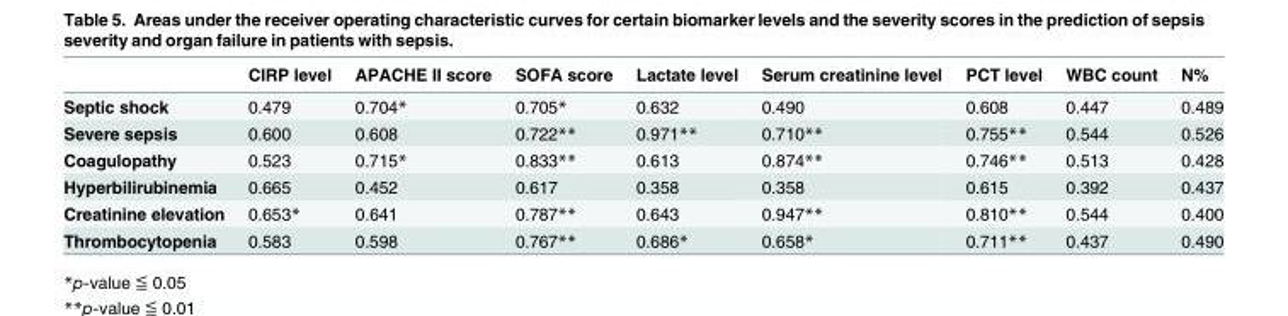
<table><thead><tr><td></td><td>CIRP level</td><td>APACHE II score</td><td>SOFA score</td><td>Lactate level</td><td>Serum creatinine level</td><td>PCT level</td><td>WBC count</td><td>N%</td></tr></thead><tbody><tr><td>Septic shock</td><td>0.479</td><td>0.704*</td><td>0.705*</td><td>0.632</td><td>0.490</td><td>0.608</td><td>0.447</td><td>0.489</td></tr><tr><td>Severe sepsis</td><td>0.600</td><td>0.608</td><td>0.722**</td><td>0.971**</td><td>0.710**</td><td>0.755**</td><td>0.544</td><td>0.526</td></tr><tr><td>Coagulopathy</td><td>0.523</td><td>0.715*</td><td>0.833**</td><td>0.613</td><td>0.874**</td><td>0.746**</td><td>0.513</td><td>0.428</td></tr><tr><td>Hyperbilirubinemia</td><td>0.665</td><td>0.452</td><td>0.617</td><td>0.358</td><td>0.358</td><td>0.615</td><td>0.392</td><td>0.437</td></tr><tr><td>Creatinine elevation</td><td>0.653*</td><td>0.641</td><td>0.787**</td><td>0.643</td><td>0.947**</td><td>0.810**</td><td>0.544</td><td>0.400</td></tr><tr><td>Thrombocytopenia</td><td>0.583</td><td>0.598</td><td>0.767**</td><td>0.686*</td><td>0.658*</td><td>0.711**</td><td>0.437</td><td>0.490</td></tr></tbody></table>